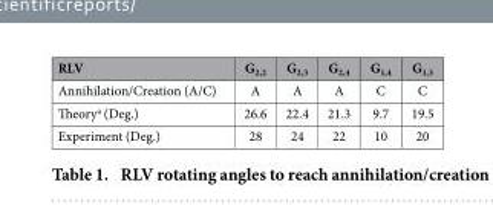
<table><thead><tr><td>RLV</td><td>G<sub>2,2</sub></td><td>G<sub>2,3</sub></td><td>G<sub>2,4</sub></td><td>G<sub>1,4</sub></td><td>G<sub>1,3</sub></td></tr></thead><tbody><tr><td>Annihilation/Creation (A/C)</td><td>A</td><td>A</td><td>A</td><td>C</td><td>C</td></tr><tr><td>Theory<sup>a</sup> (Deg.)</td><td>26.6</td><td>22.4</td><td>21.3</td><td>9.7</td><td>19.5</td></tr><tr><td>Experiment (Deg.)</td><td>28</td><td>24</td><td>22</td><td>10</td><td>20</td></tr></tbody></table>